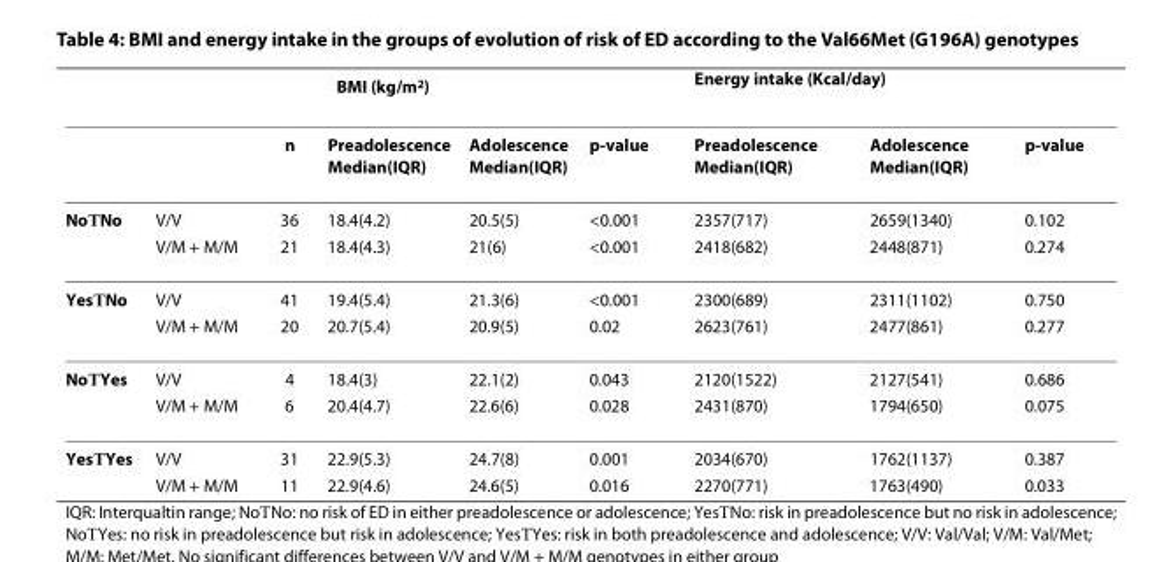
<table><thead><tr><td rowspan="2"></td><td rowspan="2"></td><td rowspan="2">n</td><td colspan="3">BMI (kg/m<sup>2</sup>)</td><td colspan="3">Energy intake (Kcal/day)</td></tr><tr><td>Preadolescence Median(IQR)</td><td>Adolescence Median(IQR)</td><td>p-value</td><td>Preadolescence Median(IQR)</td><td>Adolescence Median(IQR)</td><td>p-value</td></tr></thead><tbody><tr><td rowspan="2">No→No</td><td>V/V</td><td>36</td><td>18.4(4.2)</td><td>20.5(5)</td><td>&lt;0.001</td><td>2357(717)</td><td>2659(1340)</td><td>0.102</td></tr><tr><td>V/M + M/M</td><td>21</td><td>18.4(4.3)</td><td>21(6)</td><td>&lt;0.001</td><td>2418(682)</td><td>2448(871)</td><td>0.274</td></tr><tr><td rowspan="2">Yes→No</td><td>V/V</td><td>41</td><td>19.4(5.4)</td><td>21.3(6)</td><td>&lt;0.001</td><td>2300(689)</td><td>2311(1102)</td><td>0.750</td></tr><tr><td>V/M + M/M</td><td>20</td><td>20.7(5.4)</td><td>20.9(5)</td><td>0.02</td><td>2623(761)</td><td>2477(861)</td><td>0.277</td></tr><tr><td rowspan="2">No→Yes</td><td>V/V</td><td>4</td><td>18.4(3)</td><td>22.1(2)</td><td>0.043</td><td>2120(1522)</td><td>2127(541)</td><td>0.686</td></tr><tr><td>V/M + M/M</td><td>6</td><td>20.4(4.7)</td><td>22.6(6)</td><td>0.028</td><td>2431(870)</td><td>1794(650)</td><td>0.075</td></tr><tr><td rowspan="2">Yes→Yes</td><td>V/V</td><td>31</td><td>22.9(5.3)</td><td>24.7(8)</td><td>0.001</td><td>2034(670)</td><td>1762(1137)</td><td>0.387</td></tr><tr><td>V/M + M/M</td><td>11</td><td>22.9(4.6)</td><td>24.6(5)</td><td>0.016</td><td>2270(771)</td><td>1763(490)</td><td>0.033</td></tr></tbody></table>